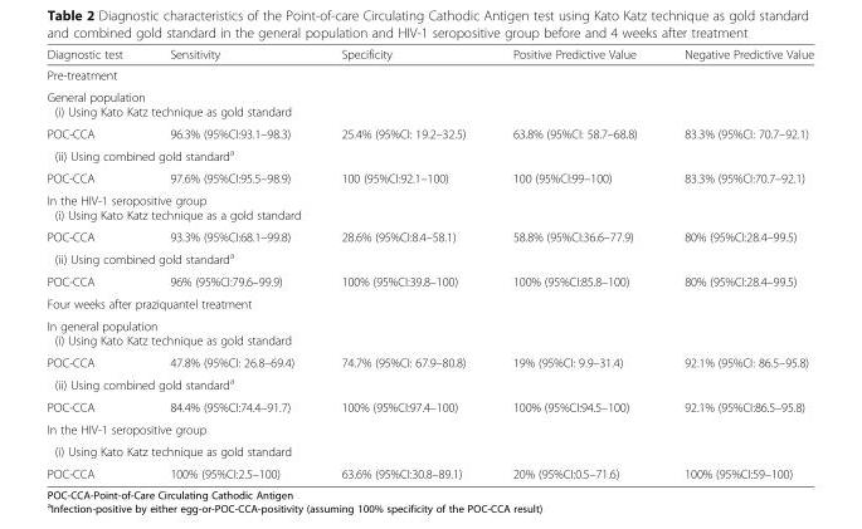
<table><thead><tr><td>Diagnostic test</td><td>Sensitivity</td><td>Specificity</td><td>Positive Predictive Value</td><td>Negative Predictive Value</td></tr></thead><tbody><tr><td colspan="5">Pre-treatment</td></tr><tr><td colspan="5">General population (i) Using Kato Katz technique as gold standard</td></tr><tr><td>POC-CCA</td><td>96.3% (95%CI:93.1–98.3)</td><td>25.4% (95%CI: 19.2–32.5)</td><td>63.8% (95%CI: 58.7–68.8)</td><td>83.3% (95%CI: 70.7–92.1)</td></tr><tr><td colspan="5">(ii) Using combined gold standard<sup>a</sup></td></tr><tr><td>POC-CCA</td><td>97.6% (95%CI:95.5–98.9)</td><td>100 (95%CI:92.1–100)</td><td>100 (95%CI:99–100)</td><td>83.3% (95%CI:70.7–92.1)</td></tr><tr><td colspan="5">In the HIV-1 seropositive group (i) Using Kato Katz technique as a gold standard</td></tr><tr><td>POC-CCA</td><td>93.3% (95%CI:68.1–99.8)</td><td>28.6% (95%CI:8.4–58.1)</td><td>58.8% (95%CI:36.6–77.9)</td><td>80% (95%CI:28.4–99.5)</td></tr><tr><td colspan="5">(ii) Using combined gold standard<sup>a</sup></td></tr><tr><td>POC-CCA</td><td>96% (95%CI:79.6–99.9)</td><td>100% (95%CI:39.8–100)</td><td>100% (95%CI:85.8–100)</td><td>80% (95%CI:28.4–99.5)</td></tr><tr><td colspan="5">Four weeks after praziquantel treatment</td></tr><tr><td colspan="5">In general population (i) Using Kato Katz technique as gold standard</td></tr><tr><td>POC-CCA</td><td>47.8% (95%CI: 26.8–69.4)</td><td>74.7% (95%CI: 67.9–80.8)</td><td>19% (95%CI: 9.9–31.4)</td><td>92.1% (95%CI: 86.5–95.8)</td></tr><tr><td colspan="5">(ii) Using combined gold standard<sup>a</sup></td></tr><tr><td>POC-CCA</td><td>84.4% (95%CI:74.4–91.7)</td><td>100% (95%CI:97.4–100)</td><td>100% (95%CI:94.5–100)</td><td>92.1% (95%CI:86.5–95.8)</td></tr><tr><td colspan="5">In the HIV-1 seropositive group</td></tr><tr><td colspan="5">(i) Using Kato Katz technique as gold standard</td></tr><tr><td>POC-CCA</td><td>100% (95%CI:2.5–100)</td><td>63.6% (95%CI:30.8–89.1)</td><td>20% (95%CI:0.5–71.6)</td><td>100% (95%CI:59–100)</td></tr></tbody></table>